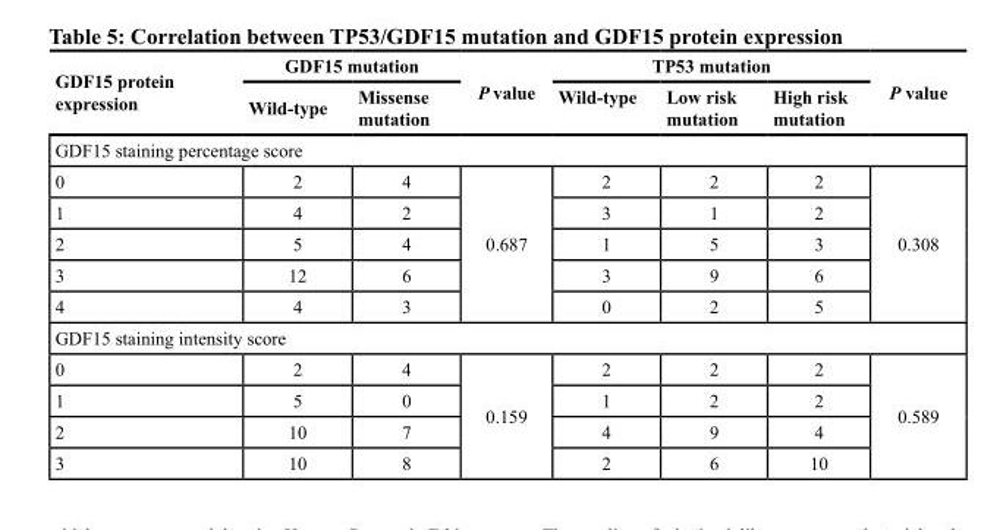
<table><thead><tr><td rowspan="2">GDF15 protein expression</td><td colspan="2">GDF15 mutation</td><td rowspan="2">P value</td><td colspan="3">TP53 mutation</td><td rowspan="2">P value</td></tr><tr><td>Wild-type</td><td>Missense mutation</td><td>Wild-type</td><td>Low risk mutation</td><td>High risk mutation</td></tr></thead><tbody><tr><td colspan="8">GDF15 staining percentage score</td></tr><tr><td>0</td><td>2</td><td>4</td><td rowspan="5">0.687</td><td>2</td><td>2</td><td>2</td><td rowspan="5">0.308</td></tr><tr><td>1</td><td>4</td><td>2</td><td>3</td><td>1</td><td>2</td></tr><tr><td>2</td><td>5</td><td>4</td><td>1</td><td>5</td><td>3</td></tr><tr><td>3</td><td>12</td><td>6</td><td>3</td><td>9</td><td>6</td></tr><tr><td>4</td><td>4</td><td>3</td><td>0</td><td>2</td><td>5</td></tr><tr><td colspan="8">GDF15 staining intensity score</td></tr><tr><td>0</td><td>2</td><td>4</td><td rowspan="4">0.159</td><td>2</td><td>2</td><td>2</td><td rowspan="4">0.589</td></tr><tr><td>1</td><td>5</td><td>0</td><td>1</td><td>2</td><td>2</td></tr><tr><td>2</td><td>10</td><td>7</td><td>4</td><td>9</td><td>4</td></tr><tr><td>3</td><td>10</td><td>8</td><td>2</td><td>6</td><td>10</td></tr></tbody></table>